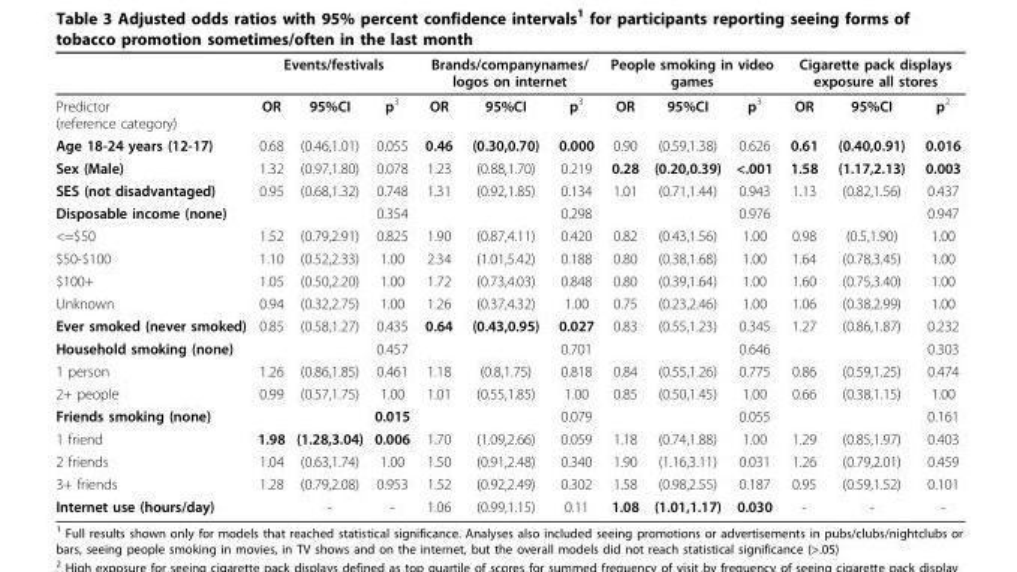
<table><thead><tr><td rowspan="2">Predictor (reference category)</td><td colspan="3">Events/festivals</td><td colspan="3">Brands/companynames/ logos on internet</td><td colspan="3">People smoking in video games</td><td colspan="3">Cigarette pack displays exposure all stores</td></tr><tr><td>OR</td><td>95%CI</td><td>p<sup>3</sup></td><td>OR</td><td>95%CI</td><td>p<sup>3</sup></td><td>OR</td><td>95%CI</td><td>p<sup>3</sup></td><td>OR</td><td>95%CI</td><td>p<sup>2</sup></td></tr></thead><tbody><tr><td>Age 18-24 years (12-17)</td><td>0.68</td><td>(0.46,1.01)</td><td>0.055</td><td>0.46</td><td>(0.30,0.70)</td><td>0.000</td><td>0.90</td><td>(0.59,1.38)</td><td>0.626</td><td>0.61</td><td>(0.40,0.91)</td><td>0.016</td></tr><tr><td>Sex (Male)</td><td>1.32</td><td>(0.97,1.80)</td><td>0.078</td><td>1.23</td><td>(0.88,1.70)</td><td>0.219</td><td>0.28</td><td>(0.20,0.39)</td><td>&lt;.001</td><td>1.58</td><td>(1.17,2.13)</td><td>0.003</td></tr><tr><td>SES (not disadvantaged)</td><td>0.95</td><td>(0.68,1.32)</td><td>0.748</td><td>1.31</td><td>(0.92,1.85)</td><td>0.134</td><td>1.01</td><td>(0.71,1.44)</td><td>0.943</td><td>1.13</td><td>(0.82,1.56)</td><td>0.437</td></tr><tr><td>Disposable income (none)</td><td></td><td></td><td>0.354</td><td></td><td></td><td>0.298</td><td></td><td></td><td>0.976</td><td></td><td></td><td>0.947</td></tr><tr><td>&lt;=$50</td><td>1.52</td><td>(0.79,2.91)</td><td>0.825</td><td>1.90</td><td>(0.87,4.11)</td><td>0.420</td><td>0.82</td><td>(0.43,1.56)</td><td>1.00</td><td>0.98</td><td>(0.5,1.90)</td><td>1.00</td></tr><tr><td>$50-$100</td><td>1.10</td><td>(0.52,2.33)</td><td>1.00</td><td>2.34</td><td>(1.01,5.42)</td><td>0.188</td><td>0.80</td><td>(0.38,1.68)</td><td>1.00</td><td>1.64</td><td>(0.78,3.45)</td><td>1.00</td></tr><tr><td>$100+</td><td>1.05</td><td>(0.50,2.20)</td><td>1.00</td><td>1.72</td><td>(0.73,4.03)</td><td>0.848</td><td>0.80</td><td>(0.39,1.64)</td><td>1.00</td><td>1.60</td><td>(0.75,3.40)</td><td>1.00</td></tr><tr><td>Unknown</td><td>0.94</td><td>(0.32,2.75)</td><td>1.00</td><td>1.26</td><td>(0.37,4.32)</td><td>1.00</td><td>0.75</td><td>(0.23,2.46)</td><td>1.00</td><td>1.06</td><td>(0.38,2.99)</td><td>1.00</td></tr><tr><td>Ever smoked (never smoked)</td><td>0.85</td><td>(0.58,1.27)</td><td>0.435</td><td>0.64</td><td>(0.43,0.95)</td><td>0.027</td><td>0.83</td><td>(0.55,1.23)</td><td>0.345</td><td>1.27</td><td>(0.86,1.87)</td><td>0.232</td></tr><tr><td>Household smoking (none)</td><td></td><td></td><td>0.457</td><td></td><td></td><td>0.701</td><td></td><td></td><td>0.646</td><td></td><td></td><td>0.303</td></tr><tr><td>1 person</td><td>1.26</td><td>(0.86,1.85)</td><td>0.461</td><td>1.18</td><td>(0.8,1.75)</td><td>0.818</td><td>0.84</td><td>(0.55,1.26)</td><td>0.775</td><td>0.86</td><td>(0.59,1.25)</td><td>0.474</td></tr><tr><td>2+ people</td><td>0.99</td><td>(0.57,1.75)</td><td>1.00</td><td>1.01</td><td>(0.55,1.85)</td><td>1.00</td><td>0.85</td><td>(0.50,1.45)</td><td>1.00</td><td>0.66</td><td>(0.38,1.15)</td><td>1.00</td></tr><tr><td>Friends smoking (none)</td><td></td><td></td><td>0.015</td><td></td><td></td><td>0.079</td><td></td><td></td><td>0.055</td><td></td><td></td><td>0.161</td></tr><tr><td>1 friend</td><td>1.98</td><td>(1.28,3.04)</td><td>0.006</td><td>1.70</td><td>(1.09,2.66)</td><td>0.059</td><td>1.18</td><td>(0.74,1.88)</td><td>1.00</td><td>1.29</td><td>(0.85,1.97)</td><td>0.403</td></tr><tr><td>2 friends</td><td>1.04</td><td>(0.63,1.74)</td><td>1.00</td><td>1.50</td><td>(0.91,2.48)</td><td>0.340</td><td>1.90</td><td>(1.16,3.11)</td><td>0.031</td><td>1.26</td><td>(0.79,2.01)</td><td>0.459</td></tr><tr><td>3+ friends</td><td>1.28</td><td>(0.79,2.08)</td><td>0.953</td><td>1.52</td><td>(0.92,2.49)</td><td>0.302</td><td>1.58</td><td>(0.98,2.55)</td><td>0.187</td><td>0.95</td><td>(0.59,1.52)</td><td>0.101</td></tr><tr><td>Internet use (hours/day)</td><td></td><td>-</td><td>-</td><td>1.06</td><td>(0.99,1.15)</td><td>0.11</td><td>1.08</td><td>(1.01,1.17)</td><td>0.030</td><td>-</td><td>-</td><td>-</td></tr></tbody></table>